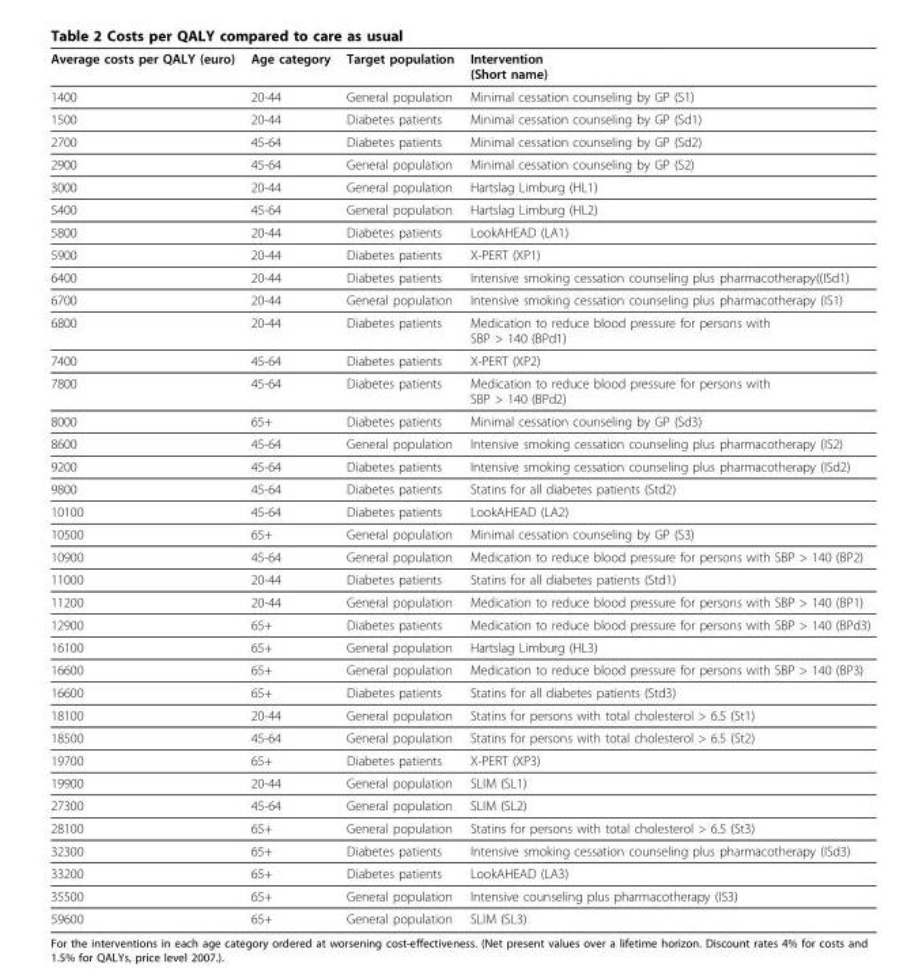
<table><thead><tr><td>Average costs per QALY (euro)</td><td>Age category</td><td>Target population</td><td>Intervention (Short name)</td></tr></thead><tbody><tr><td>1400</td><td>20-44</td><td>General population</td><td>Minimal cessation counseling by GP (S1)</td></tr><tr><td>1500</td><td>20-44</td><td>Diabetes patients</td><td>Minimal cessation counseling by GP (Sd1)</td></tr><tr><td>2700</td><td>45-64</td><td>Diabetes patients</td><td>Minimal cessation counseling by GP (Sd2)</td></tr><tr><td>2900</td><td>45-64</td><td>General population</td><td>Minimal cessation counseling by GP (S2)</td></tr><tr><td>3000</td><td>20-44</td><td>General population</td><td>Hartslag Limburg (HL1)</td></tr><tr><td>5400</td><td>45-64</td><td>General population</td><td>Hartslag Limburg (HL2)</td></tr><tr><td>5800</td><td>20-44</td><td>Diabetes patients</td><td>LookAHEAD (LA1)</td></tr><tr><td>5900</td><td>20-44</td><td>Diabetes patients</td><td>X-PERT (XP1)</td></tr><tr><td>6400</td><td>20-44</td><td>Diabetes patients</td><td>Intensive smoking cessation counseling plus pharmacotherapy((ISd1)</td></tr><tr><td>6700</td><td>20-44</td><td>General population</td><td>Intensive smoking cessation counseling plus pharmacotherapy (IS1)</td></tr><tr><td>6800</td><td>20-44</td><td>Diabetes patients</td><td>Medication to reduce blood pressure for persons with SBP &gt; 140 (BPd1)</td></tr><tr><td>7400</td><td>45-64</td><td>Diabetes patients</td><td>X-PERT (XP2)</td></tr><tr><td>7800</td><td>45-64</td><td>Diabetes patients</td><td>Medication to reduce blood pressure for persons with SBP &gt; 140 (BPd2)</td></tr><tr><td>8000</td><td>65+</td><td>Diabetes patients</td><td>Minimal cessation counseling by GP (Sd3)</td></tr><tr><td>8600</td><td>45-64</td><td>General population</td><td>Intensive smoking cessation counseling plus pharmacotherapy (IS2)</td></tr><tr><td>9200</td><td>45-64</td><td>Diabetes patients</td><td>Intensive smoking cessation counseling plus pharmacotherapy (ISd2)</td></tr><tr><td>9800</td><td>45-64</td><td>Diabetes patients</td><td>Statins for all diabetes patients (Std2)</td></tr><tr><td>10100</td><td>45-64</td><td>Diabetes patients</td><td>LookAHEAD (LA2)</td></tr><tr><td>10500</td><td>65+</td><td>General population</td><td>Minimal cessation counseling by GP (S3)</td></tr><tr><td>10900</td><td>45-64</td><td>General population</td><td>Medication to reduce blood pressure for persons with SBP &gt; 140 (BP2)</td></tr><tr><td>11000</td><td>20-44</td><td>Diabetes patients</td><td>Statins for all diabetes patients (Std1)</td></tr><tr><td>11200</td><td>20-44</td><td>General population</td><td>Medication to reduce blood pressure for persons with SBP &gt; 140 (BP1)</td></tr><tr><td>12900</td><td>65+</td><td>Diabetes patients</td><td>Medication to reduce blood pressure for persons with SBP &gt; 140 (BPd3)</td></tr><tr><td>16100</td><td>65+</td><td>General population</td><td>Hartslag Limburg (HL3)</td></tr><tr><td>16600</td><td>65+</td><td>General population</td><td>Medication to reduce blood pressure for persons with SBP &gt; 140 (BP3)</td></tr><tr><td>16600</td><td>65+</td><td>Diabetes patients</td><td>Statins for all diabetes patients (Std3)</td></tr><tr><td>18100</td><td>20-44</td><td>General population</td><td>Statins for persons with total cholesterol &gt; 6.5 (St1)</td></tr><tr><td>18500</td><td>45-64</td><td>General population</td><td>Statins for persons with total cholesterol &gt; 6.5 (St2)</td></tr><tr><td>19700</td><td>65+</td><td>Diabetes patients</td><td>X-PERT (XP3)</td></tr><tr><td>19900</td><td>20-44</td><td>General population</td><td>SLIM (SL1)</td></tr><tr><td>27300</td><td>45-64</td><td>General population</td><td>SLIM (SL2)</td></tr><tr><td>28100</td><td>65+</td><td>General population</td><td>Statins for persons with total cholesterol &gt; 6.5 (St3)</td></tr><tr><td>32300</td><td>65+</td><td>Diabetes patients</td><td>Intensive smoking cessation counseling plus pharmacotherapy (ISd3)</td></tr><tr><td>33200</td><td>65+</td><td>Diabetes patients</td><td>LookAHEAD (LA3)</td></tr><tr><td>35500</td><td>65+</td><td>General population</td><td>Intensive counseling plus pharmacotherapy (IS3)</td></tr><tr><td>59600</td><td>65+</td><td>General population</td><td>SLIM (SL3)</td></tr></tbody></table>